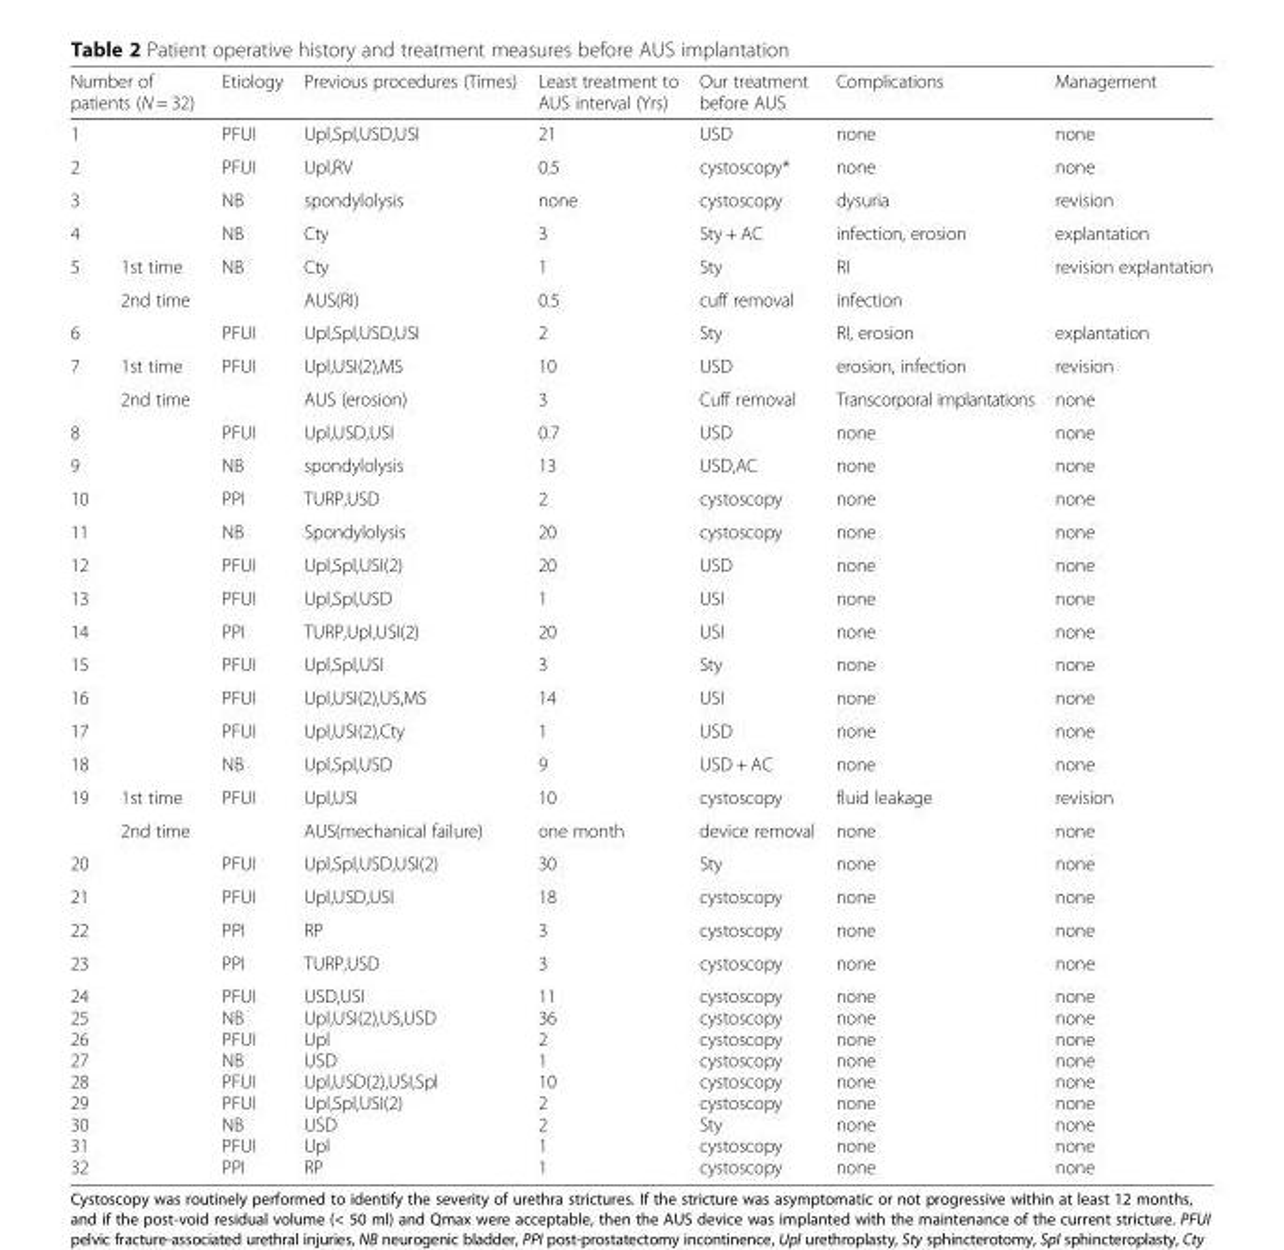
<table><thead><tr><td colspan="2">Number of patients (N = 32)</td><td>Etiology</td><td>Previous procedures (Times)</td><td>Least treatment to AUS interval (Yrs)</td><td>Our treatment before AUS</td><td>Complications</td><td>Management</td></tr></thead><tbody><tr><td colspan="2">1</td><td>PFUI</td><td>Upl,Spl,USD,USI</td><td>21</td><td>USD</td><td>none</td><td>none</td></tr><tr><td colspan="2">2</td><td>PFUI</td><td>Upl,RV</td><td>0.5</td><td>cystoscopy*</td><td>none</td><td>none</td></tr><tr><td colspan="2">3</td><td>NB</td><td>spondylolysis</td><td>none</td><td>cystoscopy</td><td>dysuria</td><td>revision</td></tr><tr><td colspan="2">4</td><td>NB</td><td>Cty</td><td>3</td><td>Sty + AC</td><td>infection, erosion</td><td>explantation</td></tr><tr><td rowspan="2">5</td><td>1st time</td><td rowspan="2">NB</td><td>Cty</td><td>1</td><td>Sty</td><td>RI</td><td rowspan="2">revision explantation</td></tr><tr><td>2nd time</td><td>AUS(RI)</td><td>0.5</td><td>cuff removal</td><td>infection</td></tr><tr><td colspan="2">6</td><td>PFUI</td><td>Upl,Spl,USD,USI</td><td>2</td><td>Sty</td><td>RI, erosion</td><td>explantation</td></tr><tr><td rowspan="2">7</td><td>1st time</td><td rowspan="2">PFUI</td><td>Upl,USI(2),MS</td><td>10</td><td>USD</td><td>erosion, infection</td><td>revision</td></tr><tr><td>2nd time</td><td>AUS (erosion)</td><td>3</td><td>Cuff removal</td><td>Transcorporal implantations</td><td>none</td></tr><tr><td colspan="2">8</td><td>PFUI</td><td>Upl,USD,USI</td><td>0.7</td><td>USD</td><td>none</td><td>none</td></tr><tr><td colspan="2">9</td><td>NB</td><td>spondylolysis</td><td>13</td><td>USD,AC</td><td>none</td><td>none</td></tr><tr><td colspan="2">10</td><td>PPI</td><td>TURP,USD</td><td>2</td><td>cystoscopy</td><td>none</td><td>none</td></tr><tr><td colspan="2">11</td><td>NB</td><td>Spondylolysis</td><td>20</td><td>cystoscopy</td><td>none</td><td>none</td></tr><tr><td colspan="2">12</td><td>PFUI</td><td>Upl,Spl,USI(2)</td><td>20</td><td>USD</td><td>none</td><td>none</td></tr><tr><td colspan="2">13</td><td>PFUI</td><td>Upl,Spl,USD</td><td>1</td><td>USI</td><td>none</td><td>none</td></tr><tr><td colspan="2">14</td><td>PPI</td><td>TURP,Upl,USI(2)</td><td>20</td><td>USI</td><td>none</td><td>none</td></tr><tr><td colspan="2">15</td><td>PFUI</td><td>Upl,Spl,USI</td><td>3</td><td>Sty</td><td>none</td><td>none</td></tr><tr><td colspan="2">16</td><td>PFUI</td><td>Upl,USI(2),US,MS</td><td>14</td><td>USI</td><td>none</td><td>none</td></tr><tr><td colspan="2">17</td><td>PFUI</td><td>Upl,USI(2),Cty</td><td>1</td><td>USD</td><td>none</td><td>none</td></tr><tr><td colspan="2">18</td><td>NB</td><td>Upl,Spl,USD</td><td>9</td><td>USD + AC</td><td>none</td><td>none</td></tr><tr><td rowspan="2">19</td><td>1st time</td><td rowspan="2">PFUI</td><td>Upl,USI</td><td>10</td><td>cystoscopy</td><td>fluid leakage</td><td>revision</td></tr><tr><td>2nd time</td><td>AUS(mechanical failure)</td><td>one month</td><td>device removal</td><td>none</td><td>none</td></tr><tr><td colspan="2">20</td><td>PFUI</td><td>Upl,Spl,USD,USI(2)</td><td>30</td><td>Sty</td><td>none</td><td>none</td></tr><tr><td colspan="2">21</td><td>PFUI</td><td>Upl,USD,USI</td><td>18</td><td>cystoscopy</td><td>none</td><td>none</td></tr><tr><td colspan="2">22</td><td>PPI</td><td>RP</td><td>3</td><td>cystoscopy</td><td>none</td><td>none</td></tr><tr><td colspan="2">23</td><td>PPI</td><td>TURP,USD</td><td>3</td><td>cystoscopy</td><td>none</td><td>none</td></tr><tr><td colspan="2">24 25 26 27 28 29 30 31 32</td><td>PFUI NB PFUI NB PFUI PFUI NB PFUI PPI</td><td>USD,USI Upl,USI(2),US,USD Upl USD Upl,USD(2),USI,Spl Upl,Spl,USI(2) USD Upl RP</td><td>11 36 2 1 10 2 2 1 1</td><td>cystoscopy cystoscopy cystoscopy cystoscopy cystoscopy cystoscopy Sty cystoscopy cystoscopy</td><td>none none none none none none none none none</td><td>none none none none none none none none none</td></tr></tbody></table>